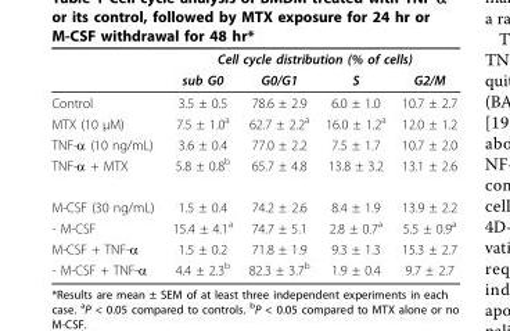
<table><thead><tr><td rowspan="2"></td><td colspan="4">Cell cycle distribution (% of cells)</td></tr><tr><td>sub G0</td><td>G0/G1</td><td>S</td><td>G2/M</td></tr></thead><tbody><tr><td>Control</td><td>3.5 ± 0.5</td><td>78.6 ± 2.9</td><td>6.0 ± 1.0</td><td>10.7 ± 2.7</td></tr><tr><td>MTX (10 μM)</td><td>7.5 ± 1.0<sup>a</sup></td><td>62.7 ± 2.2<sup>a</sup></td><td>16.0 ± 1.2<sup>a</sup></td><td>12.0 ± 1.2</td></tr><tr><td>TNF-α (10 ng/mL)</td><td>3.6 ± 0.4</td><td>77.0 ± 2.2</td><td>7.5 ± 1.7</td><td>10.7 ± 2.0</td></tr><tr><td>TNF-α + MTX</td><td>5.8 ± 0.8<sup>b</sup></td><td>65.7 ± 4.8</td><td>13.8 ± 3.2</td><td>13.1 ± 2.6</td></tr><tr><td>M-CSF (30 ng/mL)</td><td>1.5 ± 0.4</td><td>74.2 ± 2.6</td><td>8.4 ± 1.9</td><td>13.9 ± 2.2</td></tr><tr><td>- M-CSF</td><td>15.4 ± 4.1<sup>a</sup></td><td>74.7 ± 5.1</td><td>2.8 ± 0.7<sup>a</sup></td><td>5.5 ± 0.9<sup>a</sup></td></tr><tr><td>M-CSF + TNF-α</td><td>1.5 ± 0.2</td><td>71.8 ± 1.9</td><td>9.3 ± 1.3</td><td>15.3 ± 2.7</td></tr><tr><td>- M-CSF + TNF-α</td><td>4.4 ± 2.3<sup>b</sup></td><td>82.3 ± 3.7<sup>b</sup></td><td>1.9 ± 0.4</td><td>9.7 ± 2.7</td></tr></tbody></table>